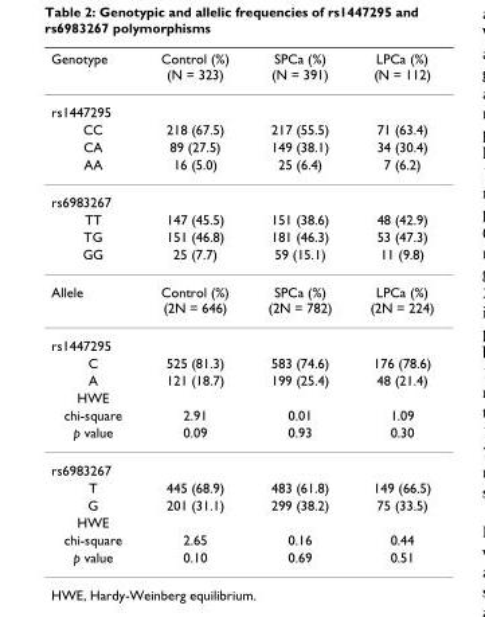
<table><thead><tr><td>Genotype</td><td>Control (%) (N = 323)</td><td>SPCa (%) (N = 391)</td><td>LPCa (%) (N = 112)</td></tr></thead><tbody><tr><td colspan="4">rs1447295</td></tr><tr><td>CC</td><td>218 (67.5)</td><td>217 (55.5)</td><td>71 (63.4)</td></tr><tr><td>CA</td><td>89 (27.5)</td><td>149 (38.1)</td><td>34 (30.4)</td></tr><tr><td>AA</td><td>16 (5.0)</td><td>25 (6.4)</td><td>7 (6.2)</td></tr><tr><td colspan="4">rs6983267</td></tr><tr><td>TT</td><td>147 (45.5)</td><td>151 (38.6)</td><td>48 (42.9)</td></tr><tr><td>TG</td><td>151 (46.8)</td><td>181 (46.3)</td><td>53 (47.3)</td></tr><tr><td>GG</td><td>25 (7.7)</td><td>59 (15.1)</td><td>11 (9.8)</td></tr><tr><td>Allele</td><td>Control (%) (2N = 646)</td><td>SPCa (%) (2N = 782)</td><td>LPCa (%) (2N = 224)</td></tr><tr><td colspan="4">rs1447295</td></tr><tr><td>C</td><td>525 (81.3)</td><td>583 (74.6)</td><td>176 (78.6)</td></tr><tr><td>A</td><td>121 (18.7)</td><td>199 (25.4)</td><td>48 (21.4)</td></tr><tr><td colspan="4">HWE</td></tr><tr><td>chi-square</td><td>2.91</td><td>0.01</td><td>1.09</td></tr><tr><td>p value</td><td>0.09</td><td>0.93</td><td>0.30</td></tr><tr><td colspan="4">rs6983267</td></tr><tr><td>T</td><td>445 (68.9)</td><td>483 (61.8)</td><td>149 (66.5)</td></tr><tr><td>G</td><td>201 (31.1)</td><td>299 (38.2)</td><td>75 (33.5)</td></tr><tr><td colspan="4">HWE</td></tr><tr><td>chi-square</td><td>2.65</td><td>0.16</td><td>0.44</td></tr><tr><td>p value</td><td>0.10</td><td>0.69</td><td>0.51</td></tr></tbody></table>